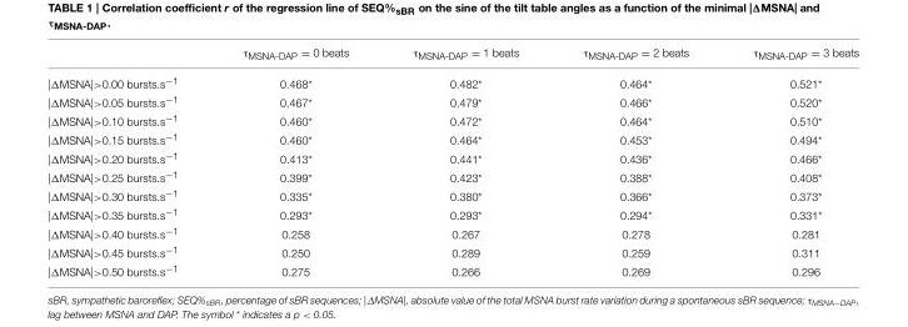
<table><thead><tr><td></td><td>τ<sub>MSNA-DAP</sub> = 0 beats</td><td>τ<sub>MSNA-DAP</sub> = 1 beats</td><td>τ<sub>MSNA-DAP</sub> = 2 beats</td><td>τ<sub>MSNA-DAP</sub> = 3 beats</td></tr></thead><tbody><tr><td>|ΔMSNA|&gt;0.00 bursts.s<sup>−1</sup></td><td>0.468*</td><td>0.482*</td><td>0.464*</td><td>0.521*</td></tr><tr><td>|ΔMSNA|&gt;0.05 bursts.s<sup>−1</sup></td><td>0.467*</td><td>0.479*</td><td>0.466*</td><td>0.520*</td></tr><tr><td>|ΔMSNA|&gt;0.10 bursts.s<sup>−1</sup></td><td>0.460*</td><td>0.472*</td><td>0.464*</td><td>0.510*</td></tr><tr><td>|ΔMSNA|&gt;0.15 bursts.s<sup>−1</sup></td><td>0.460*</td><td>0.464*</td><td>0.453*</td><td>0.494*</td></tr><tr><td>|ΔMSNA|&gt;0.20 bursts.s<sup>−1</sup></td><td>0.413*</td><td>0.441*</td><td>0.436*</td><td>0.466*</td></tr><tr><td>|ΔMSNA|&gt;0.25 bursts.s<sup>−1</sup></td><td>0.399*</td><td>0.423*</td><td>0.388*</td><td>0.408*</td></tr><tr><td>|ΔMSNA|&gt;0.30 bursts.s<sup>−1</sup></td><td>0.335*</td><td>0.380*</td><td>0.366*</td><td>0.373*</td></tr><tr><td>|ΔMSNA|&gt;0.35 bursts.s<sup>−1</sup></td><td>0.293*</td><td>0.293*</td><td>0.294*</td><td>0.331*</td></tr><tr><td>|ΔMSNA|&gt;0.40 bursts.s<sup>−1</sup></td><td>0.258</td><td>0.267</td><td>0.278</td><td>0.281</td></tr><tr><td>|ΔMSNA|&gt;0.45 bursts.s<sup>−1</sup></td><td>0.250</td><td>0.289</td><td>0.259</td><td>0.311</td></tr><tr><td>|ΔMSNA|&gt;0.50 bursts.s<sup>−1</sup></td><td>0.275</td><td>0.266</td><td>0.269</td><td>0.296</td></tr></tbody></table>